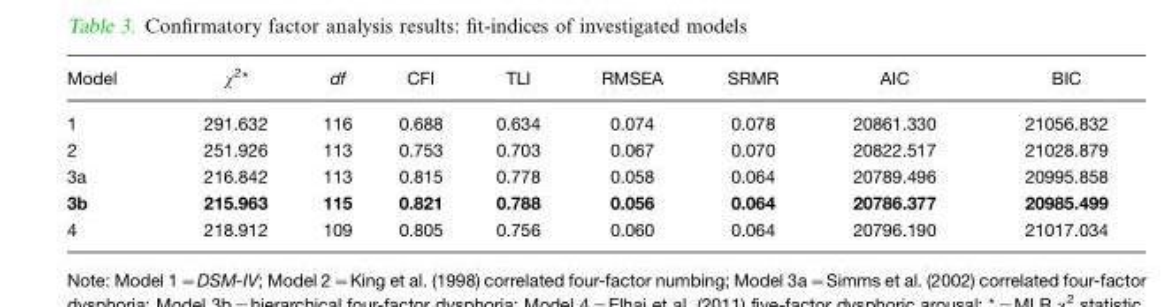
<table><thead><tr><td>Model</td><td>χ<sup>2</sup>*</td><td>df</td><td>CFI</td><td>TLI</td><td>RMSEA</td><td>SRMR</td><td>AIC</td><td>BIC</td></tr></thead><tbody><tr><td>1</td><td>291.632</td><td>116</td><td>0.688</td><td>0.634</td><td>0.074</td><td>0.078</td><td>20861.330</td><td>21056.832</td></tr><tr><td>2</td><td>251.926</td><td>113</td><td>0.753</td><td>0.703</td><td>0.067</td><td>0.070</td><td>20822.517</td><td>21028.879</td></tr><tr><td>3a</td><td>216.842</td><td>113</td><td>0.815</td><td>0.778</td><td>0.058</td><td>0.064</td><td>20789.496</td><td>20995.858</td></tr><tr><td>3b</td><td>215.963</td><td>115</td><td>0.821</td><td>0.788</td><td>0.056</td><td>0.064</td><td>20786.377</td><td>20985.499</td></tr><tr><td>4</td><td>218.912</td><td>109</td><td>0.805</td><td>0.756</td><td>0.060</td><td>0.064</td><td>20796.190</td><td>21017.034</td></tr></tbody></table>